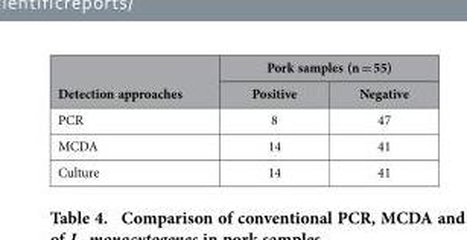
<table><thead><tr><td rowspan="2">Detection approaches</td><td colspan="2">Pork samples (n = 55)</td></tr><tr><td>Positive</td><td>Negative</td></tr></thead><tbody><tr><td>PCR</td><td>8</td><td>47</td></tr><tr><td>MCDA</td><td>14</td><td>41</td></tr><tr><td>Culture</td><td>14</td><td>41</td></tr></tbody></table>